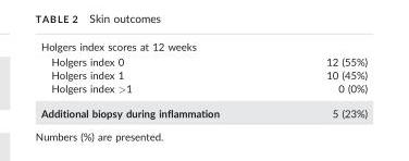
<table><tbody><tr><td colspan="2">Holgers index scores at 12 weeks</td></tr><tr><td>Holgers index 0</td><td>12 (55%)</td></tr><tr><td>Holgers index 1</td><td>10 (45%)</td></tr><tr><td>Holgers index &gt;1</td><td>0 (0%)</td></tr><tr><td>Additional biopsy during inflammation</td><td>5 (23%)</td></tr></tbody></table>